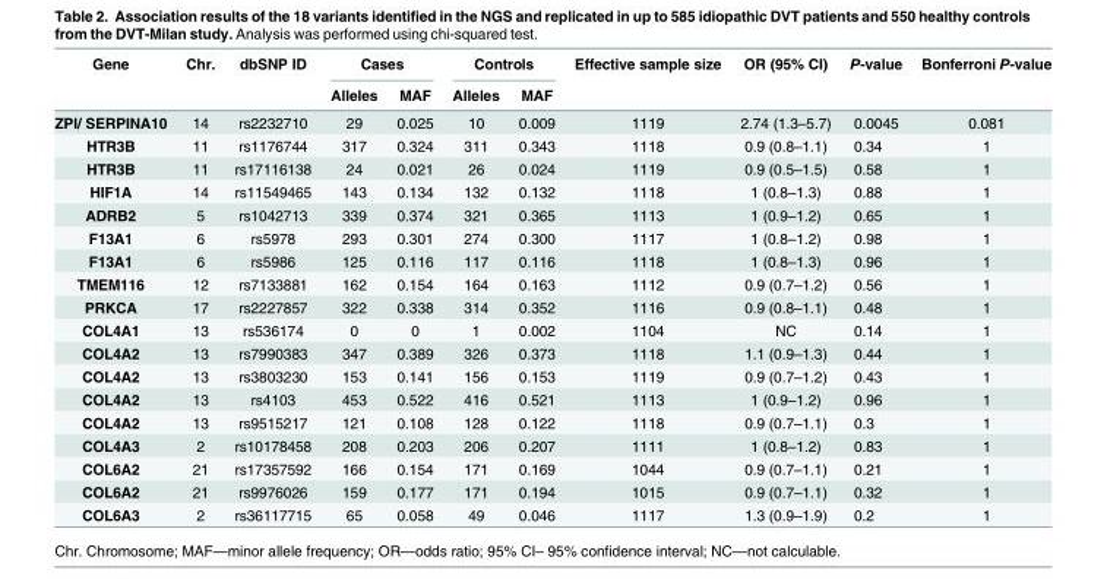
<table><thead><tr><td rowspan="2">Gene</td><td rowspan="2">Chr.</td><td rowspan="2">dbSNP ID</td><td colspan="2">Cases</td><td colspan="2">Controls</td><td rowspan="2">Effective sample size</td><td rowspan="2">OR (95% CI)</td><td rowspan="2">P-value</td><td rowspan="2">Bonferroni P-value</td></tr><tr><td>Alleles</td><td>MAF</td><td>Alleles</td><td>MAF</td></tr></thead><tbody><tr><td>ZPI/ SERPINA10</td><td>14</td><td>rs2232710</td><td>29</td><td>0.025</td><td>10</td><td>0.009</td><td>1119</td><td>2.74 (1.3–5.7)</td><td>0.0045</td><td>0.081</td></tr><tr><td>HTR3B</td><td>11</td><td>rs1176744</td><td>317</td><td>0.324</td><td>311</td><td>0.343</td><td>1118</td><td>0.9 (0.8–1.1)</td><td>0.34</td><td>1</td></tr><tr><td>HTR3B</td><td>11</td><td>rs17116138</td><td>24</td><td>0.021</td><td>26</td><td>0.024</td><td>1119</td><td>0.9 (0.5–1.5)</td><td>0.58</td><td>1</td></tr><tr><td>HIF1A</td><td>14</td><td>rs11549465</td><td>143</td><td>0.134</td><td>132</td><td>0.132</td><td>1118</td><td>1 (0.8–1.3)</td><td>0.88</td><td>1</td></tr><tr><td>ADRB2</td><td>5</td><td>rs1042713</td><td>339</td><td>0.374</td><td>321</td><td>0.365</td><td>1113</td><td>1 (0.9–1.2)</td><td>0.65</td><td>1</td></tr><tr><td>F13A1</td><td>6</td><td>rs5978</td><td>293</td><td>0.301</td><td>274</td><td>0.300</td><td>1117</td><td>1 (0.8–1.2)</td><td>0.98</td><td>1</td></tr><tr><td>F13A1</td><td>6</td><td>rs5986</td><td>125</td><td>0.116</td><td>117</td><td>0.116</td><td>1118</td><td>1 (0.8–1.3)</td><td>0.96</td><td>1</td></tr><tr><td>TMEM116</td><td>12</td><td>rs7133881</td><td>162</td><td>0.154</td><td>164</td><td>0.163</td><td>1112</td><td>0.9 (0.7–1.2)</td><td>0.56</td><td>1</td></tr><tr><td>PRKCA</td><td>17</td><td>rs2227857</td><td>322</td><td>0.338</td><td>314</td><td>0.352</td><td>1116</td><td>0.9 (0.8–1.1)</td><td>0.48</td><td>1</td></tr><tr><td>COL4A1</td><td>13</td><td>rs536174</td><td>0</td><td>0</td><td>1</td><td>0.002</td><td>1104</td><td>NC</td><td>0.14</td><td>1</td></tr><tr><td>COL4A2</td><td>13</td><td>rs7990383</td><td>347</td><td>0.389</td><td>326</td><td>0.373</td><td>1118</td><td>1.1 (0.9–1.3)</td><td>0.44</td><td>1</td></tr><tr><td>COL4A2</td><td>13</td><td>rs3803230</td><td>153</td><td>0.141</td><td>156</td><td>0.153</td><td>1119</td><td>0.9 (0.7–1.2)</td><td>0.43</td><td>1</td></tr><tr><td>COL4A2</td><td>13</td><td>rs4103</td><td>453</td><td>0.522</td><td>416</td><td>0.521</td><td>1113</td><td>1 (0.9–1.2)</td><td>0.96</td><td>1</td></tr><tr><td>COL4A2</td><td>13</td><td>rs9515217</td><td>121</td><td>0.108</td><td>128</td><td>0.122</td><td>1118</td><td>0.9 (0.7–1.1)</td><td>0.3</td><td>1</td></tr><tr><td>COL4A3</td><td>2</td><td>rs10178458</td><td>208</td><td>0.203</td><td>206</td><td>0.207</td><td>1111</td><td>1 (0.8–1.2)</td><td>0.83</td><td>1</td></tr><tr><td>COL6A2</td><td>21</td><td>rs17357592</td><td>166</td><td>0.154</td><td>171</td><td>0.169</td><td>1044</td><td>0.9 (0.7–1.1)</td><td>0.21</td><td>1</td></tr><tr><td>COL6A2</td><td>21</td><td>rs9976026</td><td>159</td><td>0.177</td><td>171</td><td>0.194</td><td>1015</td><td>0.9 (0.7–1.1)</td><td>0.32</td><td>1</td></tr><tr><td>COL6A3</td><td>2</td><td>rs36117715</td><td>65</td><td>0.058</td><td>49</td><td>0.046</td><td>1117</td><td>1.3 (0.9–1.9)</td><td>0.2</td><td>1</td></tr></tbody></table>